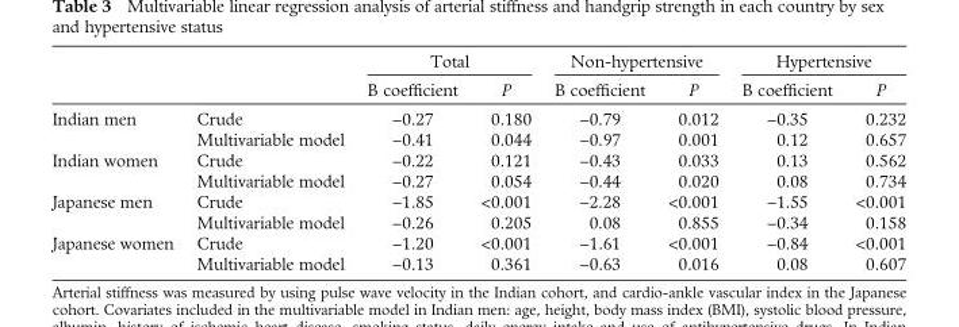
<table><thead><tr><td rowspan="2"></td><td rowspan="2"></td><td colspan="2">Total</td><td colspan="2">Non-hypertensive</td><td colspan="2">Hypertensive</td></tr><tr><td>B coefficient</td><td>P</td><td>B coefficient</td><td>P</td><td>B coefficient</td><td>P</td></tr></thead><tbody><tr><td rowspan="2">Indian men</td><td>Crude</td><td>−0.27</td><td>0.180</td><td>−0.79</td><td>0.012</td><td>−0.35</td><td>0.232</td></tr><tr><td>Multivariable model</td><td>−0.41</td><td>0.044</td><td>−0.97</td><td>0.001</td><td>0.12</td><td>0.657</td></tr><tr><td rowspan="2">Indian women</td><td>Crude</td><td>−0.22</td><td>0.121</td><td>−0.43</td><td>0.033</td><td>0.13</td><td>0.562</td></tr><tr><td>Multivariable model</td><td>−0.27</td><td>0.054</td><td>−0.44</td><td>0.020</td><td>0.08</td><td>0.734</td></tr><tr><td rowspan="2">Japanese men</td><td>Crude</td><td>−1.85</td><td>&lt;0.001</td><td>−2.28</td><td>&lt;0.001</td><td>−1.55</td><td>&lt;0.001</td></tr><tr><td>Multivariable model</td><td>−0.26</td><td>0.205</td><td>0.08</td><td>0.855</td><td>−0.34</td><td>0.158</td></tr><tr><td rowspan="2">Japanese women</td><td>Crude</td><td>−1.20</td><td>&lt;0.001</td><td>−1.61</td><td>&lt;0.001</td><td>−0.84</td><td>&lt;0.001</td></tr><tr><td>Multivariable model</td><td>−0.13</td><td>0.361</td><td>−0.63</td><td>0.016</td><td>0.08</td><td>0.607</td></tr></tbody></table>